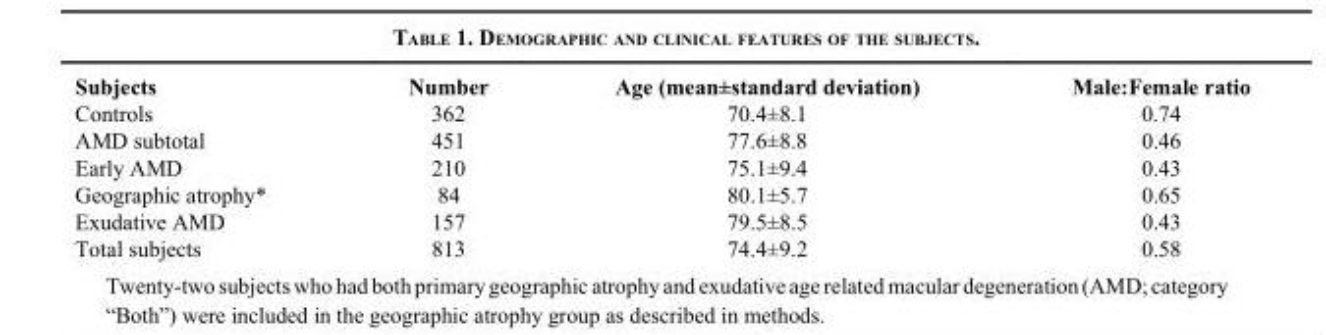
<table><thead><tr><td>Subjects</td><td>Number</td><td>Age (mean±standard deviation)</td><td>Male:Female ratio</td></tr></thead><tbody><tr><td>Controls</td><td>362</td><td>70.4±8.1</td><td>0.74</td></tr><tr><td>AMD subtotal</td><td>451</td><td>77.6±8.8</td><td>0.46</td></tr><tr><td>Early AMD</td><td>210</td><td>75.1±9.4</td><td>0.43</td></tr><tr><td>Geographic atrophy*</td><td>84</td><td>80.1±5.7</td><td>0.65</td></tr><tr><td>Exudative AMD</td><td>157</td><td>79.5±8.5</td><td>0.43</td></tr><tr><td>Total subjects</td><td>813</td><td>74.4±9.2</td><td>0.58</td></tr></tbody></table>